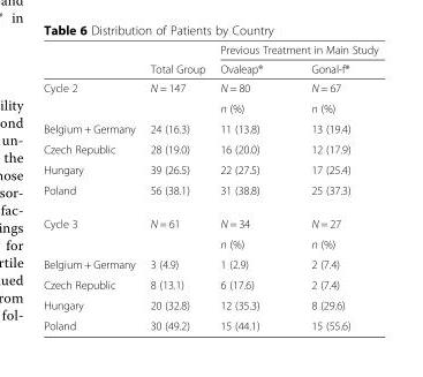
<table><thead><tr><td rowspan="2"></td><td rowspan="2">Total Group</td><td colspan="2">Previous Treatment in Main Study</td></tr><tr><td>Ovaleap®</td><td>Gonal-f®</td></tr></thead><tbody><tr><td rowspan="2">Cycle 2</td><td rowspan="2">N = 147</td><td>N = 80</td><td>N = 67</td></tr><tr><td>n (%)</td><td>n (%)</td></tr><tr><td>Belgium + Germany</td><td>24 (16.3)</td><td>11 (13.8)</td><td>13 (19.4)</td></tr><tr><td>Czech Republic</td><td>28 (19.0)</td><td>16 (20.0)</td><td>12 (17.9)</td></tr><tr><td>Hungary</td><td>39 (26.5)</td><td>22 (27.5)</td><td>17 (25.4)</td></tr><tr><td>Poland</td><td>56 (38.1)</td><td>31 (38.8)</td><td>25 (37.3)</td></tr><tr><td rowspan="2">Cycle 3</td><td rowspan="2">N = 61</td><td>N = 34</td><td>N = 27</td></tr><tr><td>n (%)</td><td>n (%)</td></tr><tr><td>Belgium + Germany</td><td>3 (4.9)</td><td>1 (2.9)</td><td>2 (7.4)</td></tr><tr><td>Czech Republic</td><td>8 (13.1)</td><td>6 (17.6)</td><td>2 (7.4)</td></tr><tr><td>Hungary</td><td>20 (32.8)</td><td>12 (35.3)</td><td>8 (29.6)</td></tr><tr><td>Poland</td><td>30 (49.2)</td><td>15 (44.1)</td><td>15 (55.6)</td></tr></tbody></table>